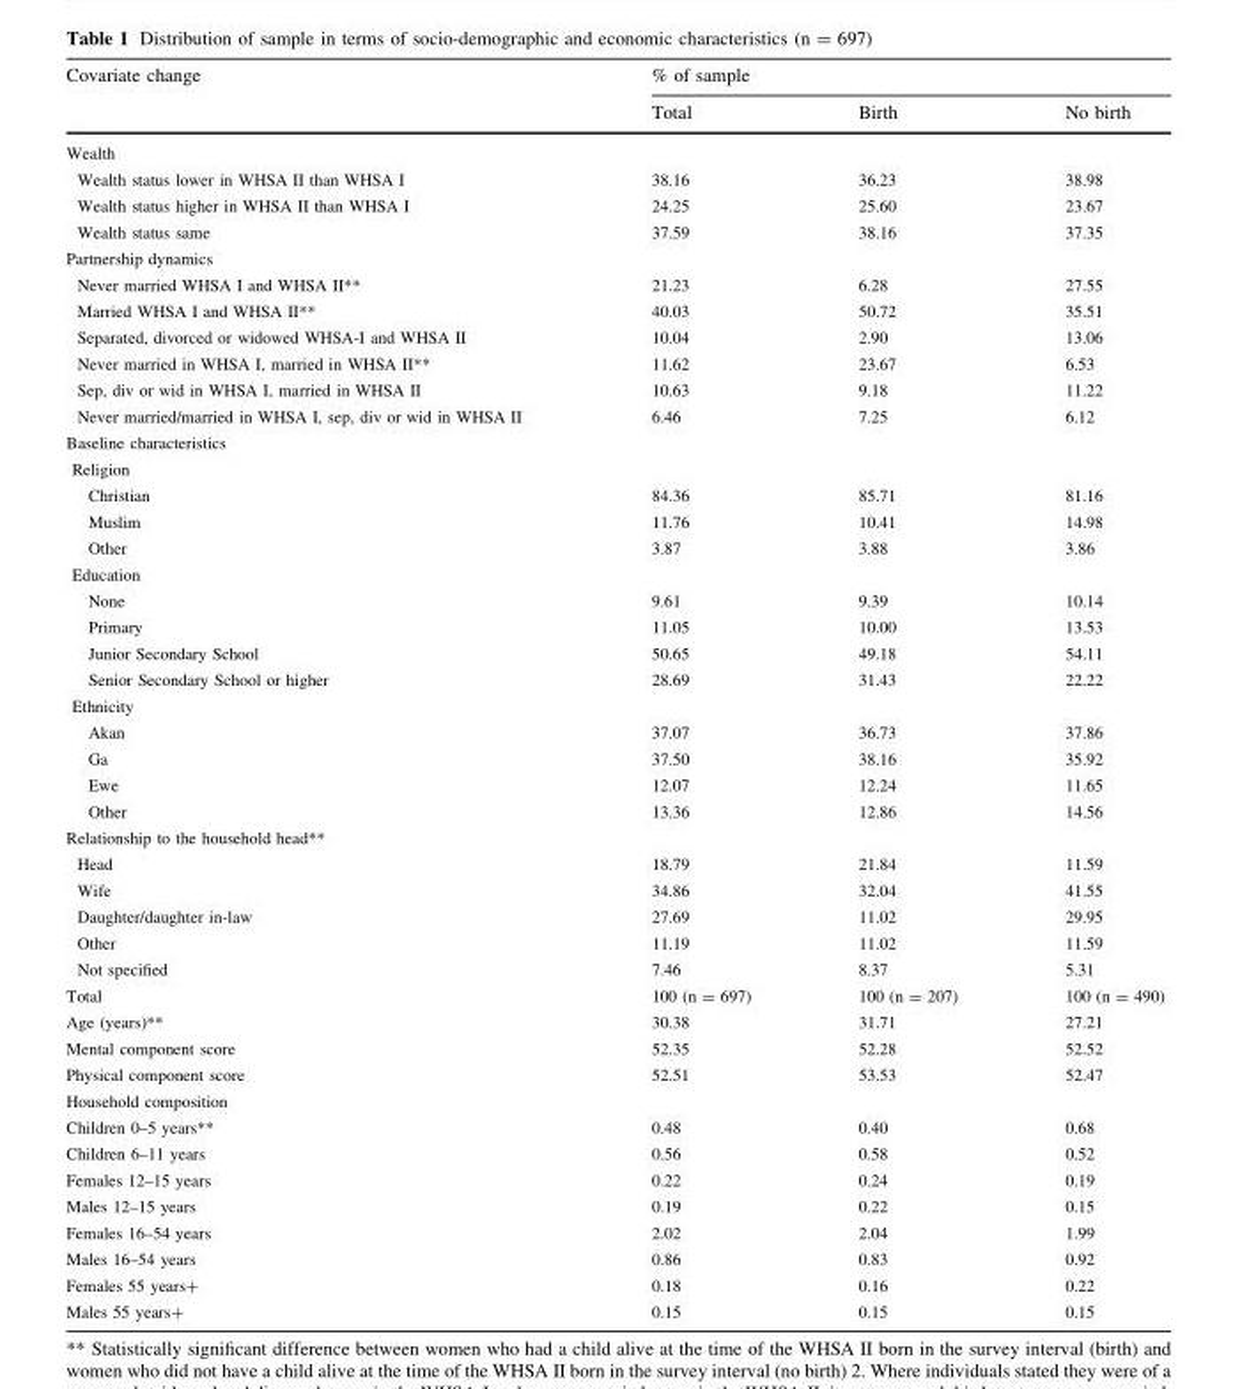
<table><thead><tr><td rowspan="2">Covariate change</td><td colspan="3">% of sample</td></tr><tr><td>Total</td><td>Birth</td><td>No birth</td></tr></thead><tbody><tr><td colspan="4">Wealth</td></tr><tr><td>Wealth status lower in WHSA II than WHSA I</td><td>38.16</td><td>36.23</td><td>38.98</td></tr><tr><td>Wealth status higher in WHSA II than WHSA I</td><td>24.25</td><td>25.60</td><td>23.67</td></tr><tr><td>Wealth status same</td><td>37.59</td><td>38.16</td><td>37.35</td></tr><tr><td colspan="4">Partnership dynamics</td></tr><tr><td>Never married WHSA I and WHSA II**</td><td>21.23</td><td>6.28</td><td>27.55</td></tr><tr><td>Married WHSA I and WHSA II**</td><td>40.03</td><td>50.72</td><td>35.51</td></tr><tr><td>Separated, divorced or widowed WHSA-I and WHSA II</td><td>10.04</td><td>2.90</td><td>13.06</td></tr><tr><td>Never married in WHSA I, married in WHSA II**</td><td>11.62</td><td>23.67</td><td>6.53</td></tr><tr><td>Sep, div or wid in WHSA I, married in WHSA II</td><td>10.63</td><td>9.18</td><td>11.22</td></tr><tr><td>Never married/married in WHSA I, sep, div or wid in WHSA II</td><td>6.46</td><td>7.25</td><td>6.12</td></tr><tr><td colspan="4">Baseline characteristics</td></tr><tr><td colspan="4">Religion</td></tr><tr><td>Christian</td><td>84.36</td><td>85.71</td><td>81.16</td></tr><tr><td>Muslim</td><td>11.76</td><td>10.41</td><td>14.98</td></tr><tr><td>Other</td><td>3.87</td><td>3.88</td><td>3.86</td></tr><tr><td colspan="4">Education</td></tr><tr><td>None</td><td>9.61</td><td>9.39</td><td>10.14</td></tr><tr><td>Primary</td><td>11.05</td><td>10.00</td><td>13.53</td></tr><tr><td>Junior Secondary School</td><td>50.65</td><td>49.18</td><td>54.11</td></tr><tr><td>Senior Secondary School or higher</td><td>28.69</td><td>31.43</td><td>22.22</td></tr><tr><td colspan="4">Ethnicity</td></tr><tr><td>Akan</td><td>37.07</td><td>36.73</td><td>37.86</td></tr><tr><td>Ga</td><td>37.50</td><td>38.16</td><td>35.92</td></tr><tr><td>Ewe</td><td>12.07</td><td>12.24</td><td>11.65</td></tr><tr><td>Other</td><td>13.36</td><td>12.86</td><td>14.56</td></tr><tr><td colspan="4">Relationship to the household head**</td></tr><tr><td>Head</td><td>18.79</td><td>21.84</td><td>11.59</td></tr><tr><td>Wife</td><td>34.86</td><td>32.04</td><td>41.55</td></tr><tr><td>Daughter/daughter in-law</td><td>27.69</td><td>11.02</td><td>29.95</td></tr><tr><td>Other</td><td>11.19</td><td>11.02</td><td>11.59</td></tr><tr><td>Not specified</td><td>7.46</td><td>8.37</td><td>5.31</td></tr><tr><td>Total</td><td>100 (n = 697)</td><td>100 (n = 207)</td><td>100 (n = 490)</td></tr><tr><td>Age (years)**</td><td>30.38</td><td>31.71</td><td>27.21</td></tr><tr><td>Mental component score</td><td>52.35</td><td>52.28</td><td>52.52</td></tr><tr><td>Physical component score</td><td>52.51</td><td>53.53</td><td>52.47</td></tr><tr><td colspan="4">Household composition</td></tr><tr><td>Children 0–5 years**</td><td>0.48</td><td>0.40</td><td>0.68</td></tr><tr><td>Children 6–11 years</td><td>0.56</td><td>0.58</td><td>0.52</td></tr><tr><td>Females 12–15 years</td><td>0.22</td><td>0.24</td><td>0.19</td></tr><tr><td>Males 12–15 years</td><td>0.19</td><td>0.22</td><td>0.15</td></tr><tr><td>Females 16–54 years</td><td>2.02</td><td>2.04</td><td>1.99</td></tr><tr><td>Males 16–54 years</td><td>0.86</td><td>0.83</td><td>0.92</td></tr><tr><td>Females 55 years+</td><td>0.18</td><td>0.16</td><td>0.22</td></tr><tr><td>Males 55 years+</td><td>0.15</td><td>0.15</td><td>0.15</td></tr></tbody></table>